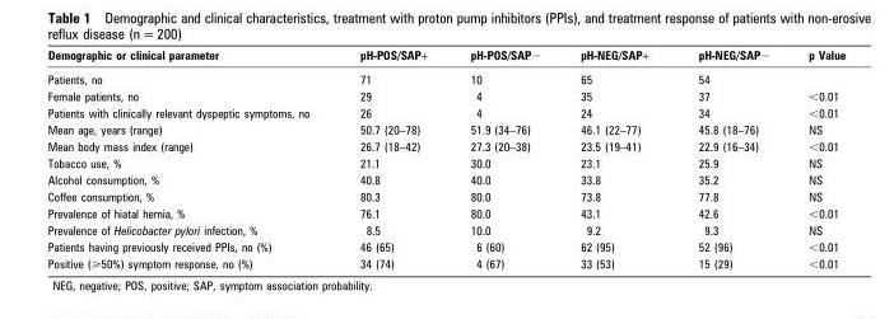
<table><thead><tr><td>Demographic or clinical parameter</td><td>pH-POS/SAP+</td><td>pH-POS/SAP−</td><td>pH-NEG/SAP+</td><td>pH-NEG/SAP−</td><td>p Value</td></tr></thead><tbody><tr><td>Patients, no</td><td>71</td><td>10</td><td>65</td><td>54</td><td></td></tr><tr><td>Female patients, no</td><td>29</td><td>4</td><td>35</td><td>37</td><td>&lt;0.01</td></tr><tr><td>Patients with clinically relevant dyspeptic symptoms, no</td><td>26</td><td>4</td><td>24</td><td>34</td><td>&lt;0.01</td></tr><tr><td>Mean age, years (range)</td><td>50.7 (20–78)</td><td>51.9 (34–76)</td><td>46.1 (22–77)</td><td>45.8 (18–76)</td><td>NS</td></tr><tr><td>Mean body mass index (range)</td><td>26.7 (18–42)</td><td>27.3 (20–38)</td><td>23.5 (19–41)</td><td>22.9 (16–34)</td><td>&lt;0.01</td></tr><tr><td>Tobacco use, %</td><td>21.1</td><td>30.0</td><td>23.1</td><td>25.9</td><td>NS</td></tr><tr><td>Alcohol consumption, %</td><td>40.8</td><td>40.0</td><td>33.8</td><td>35.2</td><td>NS</td></tr><tr><td>Coffee consumption, %</td><td>80.3</td><td>80.0</td><td>73.8</td><td>77.8</td><td>NS</td></tr><tr><td>Prevalence of hiatal hernia, %</td><td>76.1</td><td>80.0</td><td>43.1</td><td>42.6</td><td>&lt;0.01</td></tr><tr><td>Prevalence of Helicobacter pylori infection, %</td><td>8.5</td><td>10.0</td><td>9.2</td><td>9.3</td><td>NS</td></tr><tr><td>Patients having previously received PPIs, no (%)</td><td>46 (65)</td><td>6 (60)</td><td>62 (95)</td><td>52 (96)</td><td>&lt;0.01</td></tr><tr><td>Positive (&gt;50%) symptom response, no (%)</td><td>34 (74)</td><td>4 (67)</td><td>33 (53)</td><td>15 (29)</td><td>&lt;0.01</td></tr></tbody></table>